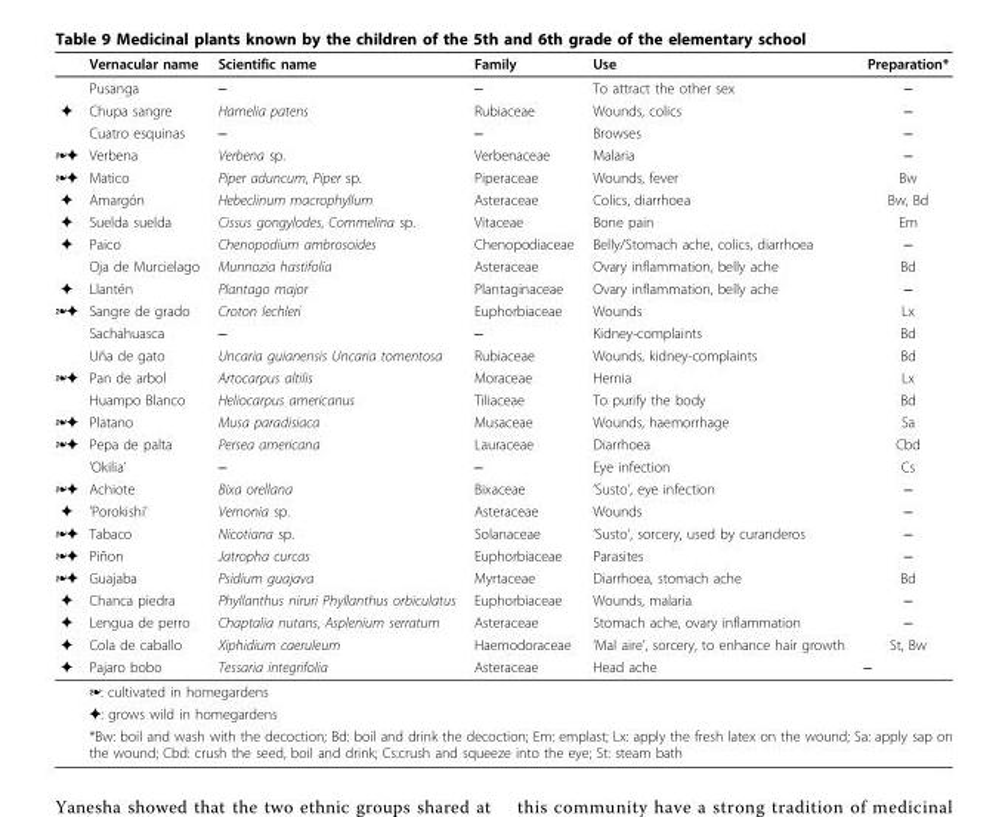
<table><thead><tr><td></td><td>Vernacular name</td><td>Scientific name</td><td>Family</td><td>Use</td><td>Preparation*</td></tr></thead><tbody><tr><td></td><td>Pusanga</td><td>‒</td><td>‒</td><td>To attract the other sex</td><td>‒</td></tr><tr><td rowspan="2">✦</td><td>Chupa sangre</td><td>Hamelia patens</td><td>Rubiaceae</td><td>Wounds, colics</td><td>‒</td></tr><tr><td>Cuatro esquinas</td><td>‒</td><td>‒</td><td>Browses</td><td>‒</td></tr><tr><td>❧✦</td><td>Verbena</td><td>Verbena sp.</td><td>Verbenaceae</td><td>Malaria</td><td>‒</td></tr><tr><td>❧✦</td><td>Matico</td><td>Piper aduncum, Piper sp.</td><td>Piperaceae</td><td>Wounds, fever</td><td>Bw</td></tr><tr><td>✦</td><td>Amargón</td><td>Hebeclinum macrophyllum</td><td>Asteraceae</td><td>Colics, diarrhoea</td><td>Bw, Bd</td></tr><tr><td>✦</td><td>Suelda suelda</td><td>Cissus gongylodes, Commelina sp.</td><td>Vitaceae</td><td>Bone pain</td><td>Em</td></tr><tr><td rowspan="2">✦</td><td>Paico</td><td>Chenopodium ambrosoides</td><td>Chenopodiaceae</td><td>Belly/Stomach ache, colics, diarrhoea</td><td>‒</td></tr><tr><td>Oja de Murcielago</td><td>Munnozia hastifolia</td><td>Asteraceae</td><td>Ovary inflammation, belly ache</td><td>Bd</td></tr><tr><td>✦</td><td>Llantén</td><td>Plantago major</td><td>Plantaginaceae</td><td>Ovary inflammation, belly ache</td><td>‒</td></tr><tr><td rowspan="3">❧✦</td><td>Sangre de grado</td><td>Croton lechleri</td><td>Euphorbiaceae</td><td>Wounds</td><td>Lx</td></tr><tr><td>Sachahuasca</td><td>‒</td><td>‒</td><td>Kidney-complaints</td><td>Bd</td></tr><tr><td>Uña de gato</td><td>Uncaria guianensis Uncaria tomentosa</td><td>Rubiaceae</td><td>Wounds, kidney-complaints</td><td>Bd</td></tr><tr><td rowspan="2">❧✦</td><td>Pan de arbol</td><td>Artocarpus altilis</td><td>Moraceae</td><td>Hernia</td><td>Lx</td></tr><tr><td>Huampo Blanco</td><td>Heliocarpus americanus</td><td>Tiliaceae</td><td>To purify the body</td><td>Bd</td></tr><tr><td>❧✦</td><td>Platano</td><td>Musa paradisiaca</td><td>Musaceae</td><td>Wounds, haemorrhage</td><td>Sa</td></tr><tr><td rowspan="2">❧✦</td><td>Pepa de palta</td><td>Persea americana</td><td>Lauraceae</td><td>Diarrhoea</td><td>Cbd</td></tr><tr><td>’Okilia’</td><td>‒</td><td>‒</td><td>Eye infection</td><td>Cs</td></tr><tr><td>❧✦</td><td>Achiote</td><td>Bixa orellana</td><td>Bixaceae</td><td>’Susto’, eye infection</td><td>‒</td></tr><tr><td>✦</td><td>’Porokishi’</td><td>Vernonia sp.</td><td>Asteraceae</td><td>Wounds</td><td>‒</td></tr><tr><td>❧✦</td><td>Tabaco</td><td>Nicotiana sp.</td><td>Solanaceae</td><td>’Susto’, sorcery, used by curanderos</td><td>‒</td></tr><tr><td>❧✦</td><td>Piñon</td><td>Jatropha curcas</td><td>Euphorbiaceae</td><td>Parasites</td><td>‒</td></tr><tr><td>❧✦</td><td>Guajaba</td><td>Psidium guajava</td><td>Myrtaceae</td><td>Diarrhoea, stomach ache</td><td>Bd</td></tr><tr><td>✦</td><td>Chanca piedra</td><td>Phyllanthus niruri Phyllanthus orbiculatus</td><td>Euphorbiaceae</td><td>Wounds, malaria</td><td>‒</td></tr><tr><td>✦</td><td>Lengua de perro</td><td>Chaptalia nutans, Asplenium serratum</td><td>Asteraceae</td><td>Stomach ache, ovary inflammation</td><td>‒</td></tr><tr><td>✦</td><td>Cola de caballo</td><td>Xiphidium caeruleum</td><td>Haemodoraceae</td><td>’Mal aire’, sorcery, to enhance hair growth</td><td>St, Bw</td></tr><tr><td rowspan="4">✦</td><td>Pajaro bobo</td><td>Tessaria integrifolia</td><td>Asteraceae</td><td>Head ache</td><td>‒</td></tr><tr><td colspan="5">❧: cultivated in homegardens</td></tr><tr><td colspan="5">✦: grows wild in homegardens</td></tr><tr><td colspan="5">*Bw: boil and wash with the decoction; Bd: boil and drink the decoction; Em: emplast; Lx: apply the fresh latex on the wound; Sa: apply sap on the wound; Cbd: crush the seed, boil and drink; Cs:crush and squeeze into the eye; St: steam bath</td></tr></tbody></table>